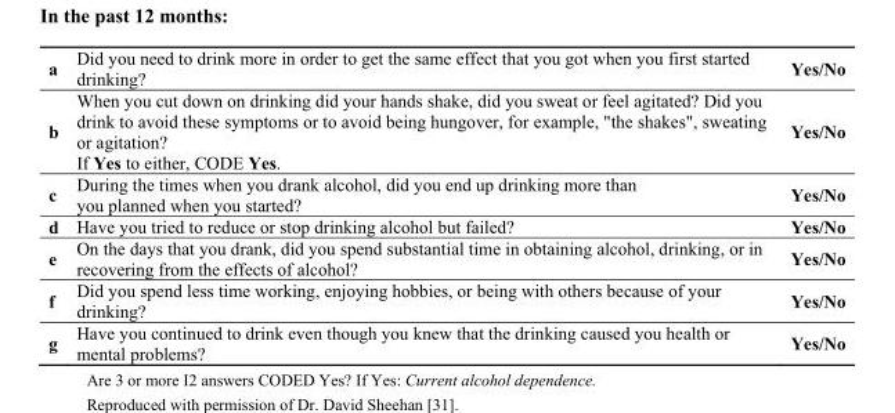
<table><tbody><tr><td>a</td><td>Did you need to drink more in order to get the same effect that you got when you first started drinking?</td><td>Yes/No</td></tr><tr><td>b</td><td>When you cut down on drinking did your hands shake, did you sweat or feel agitated? Did you drink to avoid these symptoms or to avoid being hungover, for example, &quot;the shakes&quot;, sweating or agitation? If Yes to either, CODE Yes.</td><td>Yes/No</td></tr><tr><td>c</td><td>During the times when you drank alcohol, did you end up drinking more than you planned when you started?</td><td>Yes/No</td></tr><tr><td>d</td><td>Have you tried to reduce or stop drinking alcohol but failed?</td><td>Yes/No</td></tr><tr><td>e</td><td>On the days that you drank, did you spend substantial time in obtaining alcohol, drinking, or in recovering from the effects of alcohol?</td><td>Yes/No</td></tr><tr><td>f</td><td>Did you spend less time working, enjoying hobbies, or being with others because of your drinking?</td><td>Yes/No</td></tr><tr><td>g</td><td>Have you continued to drink even though you knew that the drinking caused you health or mental problems?</td><td>Yes/No</td></tr></tbody></table>